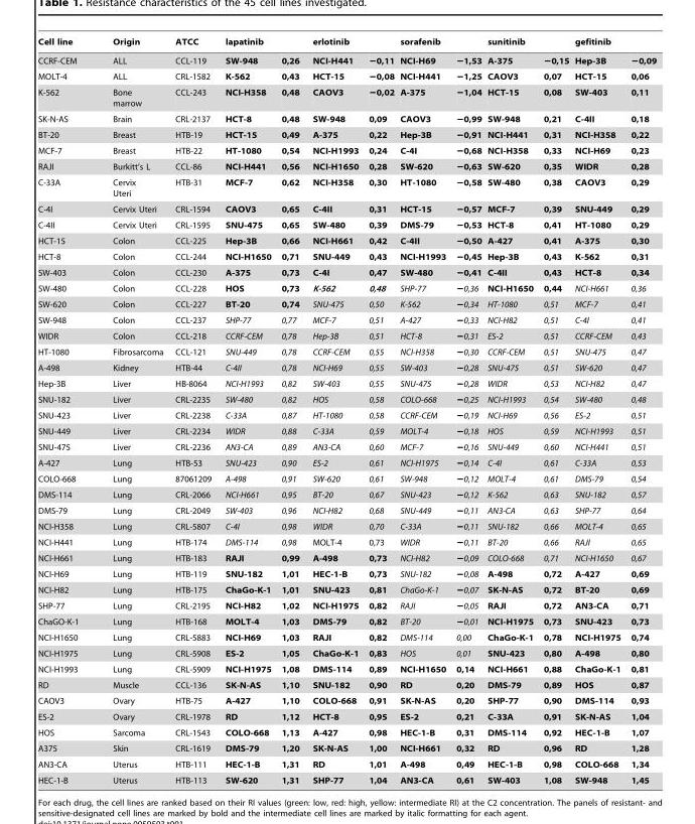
<table><thead><tr><td rowspan="2">Cell line CCRF-CEM</td><td rowspan="2">Origin ALL</td><td rowspan="2">ATCC CCL-119</td><td colspan="2">lapatinib</td><td colspan="2">erlotinib</td><td colspan="2">sorafenib</td><td colspan="2">sunitinib</td><td colspan="2">gefitinib</td></tr><tr><td>SW-948</td><td>0,26</td><td>NCI-H441</td><td>−0,11</td><td>NCI-H69</td><td>−1,53</td><td>A-375</td><td>−0,15</td><td>Hep-3B</td><td>−0,09</td></tr></thead><tbody><tr><td>MOLT-4</td><td>ALL</td><td>CRL-1582</td><td>K-562</td><td>0,43</td><td>HCT-15</td><td>−0,08</td><td>NCI-H441</td><td>−1,25</td><td>CAOV3</td><td>0,07</td><td>HCT-15</td><td>0,06</td></tr><tr><td>K-562</td><td>Bone marrow</td><td>CCL-243</td><td>NCI-H358</td><td>0,48</td><td>CAOV3</td><td>−0,02</td><td>A-375</td><td>−1,04</td><td>HCT-15</td><td>0,08</td><td>SW-403</td><td>0,11</td></tr><tr><td>SK-N-AS</td><td>Brain</td><td>CRL-2137</td><td>HCT-8</td><td>0,48</td><td>SW-948</td><td>0,09</td><td>CAOV3</td><td>−0,99</td><td>SW-948</td><td>0,21</td><td>C-4II</td><td>0,18</td></tr><tr><td>BT-20</td><td>Breast</td><td>HTB-19</td><td>HCT-15</td><td>0,49</td><td>A-375</td><td>0,22</td><td>Hep-3B</td><td>−0,91</td><td>NCI-H441</td><td>0,31</td><td>NCI-H358</td><td>0,22</td></tr><tr><td>MCF-7</td><td>Breast</td><td>HTB-22</td><td>HT-1080</td><td>0,54</td><td>NCI-H1993</td><td>0,24</td><td>C-4I</td><td>−0,68</td><td>NCI-H358</td><td>0,33</td><td>NCI-H69</td><td>0,23</td></tr><tr><td>RAJI</td><td>Burkitt’s L</td><td>CCL-86</td><td>NCI-H441</td><td>0,56</td><td>NCI-H1650</td><td>0,28</td><td>SW-620</td><td>−0,63</td><td>SW-620</td><td>0,35</td><td>WIDR</td><td>0,28</td></tr><tr><td>C-33A</td><td>Cervix Uteri</td><td>HTB-31</td><td>MCF-7</td><td>0,62</td><td>NCI-H358</td><td>0,30</td><td>HT-1080</td><td>−0,58</td><td>SW-480</td><td>0,38</td><td>CAOV3</td><td>0,29</td></tr><tr><td>C-4I</td><td>Cervix Uteri</td><td>CRL-1594</td><td>CAOV3</td><td>0,65</td><td>C-4II</td><td>0,31</td><td>HCT-15</td><td>−0,57</td><td>MCF-7</td><td>0,39</td><td>SNU-449</td><td>0,29</td></tr><tr><td>C-4II</td><td>Cervix Uteri</td><td>CRL-1595</td><td>SNU-475</td><td>0,65</td><td>SW-480</td><td>0,39</td><td>DMS-79</td><td>−0,53</td><td>HCT-8</td><td>0,41</td><td>HT-1080</td><td>0,29</td></tr><tr><td>HCT-15</td><td>Colon</td><td>CCL-225</td><td>Hep-3B</td><td>0,66</td><td>NCI-H661</td><td>0,42</td><td>C-4II</td><td>−0,50</td><td>A-427</td><td>0,41</td><td>A-375</td><td>0,30</td></tr><tr><td>HCT-8</td><td>Colon</td><td>CCL-244</td><td>NCI-H1650</td><td>0,71</td><td>SNU-449</td><td>0,43</td><td>NCI-H1993</td><td>−0,45</td><td>Hep-3B</td><td>0,43</td><td>K-562</td><td>0,31</td></tr><tr><td>SW-403</td><td>Colon</td><td>CCL-230</td><td>A-375</td><td>0,73</td><td>C-4I</td><td>0,47</td><td>SW-480</td><td>−0,41</td><td>C-4II</td><td>0,43</td><td>HCT-8</td><td>0,34</td></tr><tr><td>SW-480</td><td>Colon</td><td>CCL-228</td><td>HOS</td><td>0,73</td><td>K-562</td><td>0,48</td><td>SHP-77</td><td>−0,36</td><td>NCI-H1650</td><td>0,44</td><td>NCI-H661</td><td>0,36</td></tr><tr><td>SW-620</td><td>Colon</td><td>CCL-227</td><td>BT-20</td><td>0,74</td><td>SNU-475</td><td>0,50</td><td>K-562</td><td>−0,34</td><td>HT-1080</td><td>0,51</td><td>MCF-7</td><td>0,41</td></tr><tr><td>SW-948</td><td>Colon</td><td>CCL-237</td><td>SHP-77</td><td>0,77</td><td>MCF-7</td><td>0,51</td><td>A-427</td><td>−0,33</td><td>NCI-H82</td><td>0,51</td><td>C-4I</td><td>0,41</td></tr><tr><td>WIDR</td><td>Colon</td><td>CCL-218</td><td>CCRF-CEM</td><td>0,78</td><td>Hep-3B</td><td>0,51</td><td>HCT-8</td><td>−0,31</td><td>ES-2</td><td>0,51</td><td>CCRF-CEM</td><td>0,43</td></tr><tr><td>HT-1080</td><td>Fibrosarcoma</td><td>CCL-121</td><td>SNU-449</td><td>0,78</td><td>CCRF-CEM</td><td>0,55</td><td>NCI-H358</td><td>−0,30</td><td>CCRF-CEM</td><td>0,51</td><td>SNU-475</td><td>0,47</td></tr><tr><td>A-498</td><td>Kidney</td><td>HTB-44</td><td>C-4II</td><td>0,78</td><td>NCI-H69</td><td>0,55</td><td>SW-403</td><td>−0,28</td><td>SNU-475</td><td>0,51</td><td>SW-620</td><td>0,47</td></tr><tr><td>Hep-3B</td><td>Liver</td><td>HB-8064</td><td>NCI-H1993</td><td>0,82</td><td>SW-403</td><td>0,55</td><td>SNU-475</td><td>−0,28</td><td>WIDR</td><td>0,53</td><td>NCI-H82</td><td>0,47</td></tr><tr><td>SNU-182</td><td>Liver</td><td>CRL-2235</td><td>SW-480</td><td>0,82</td><td>HOS</td><td>0,58</td><td>COLO-668</td><td>−0,25</td><td>NCI-H1993</td><td>0,54</td><td>SW-480</td><td>0,48</td></tr><tr><td>SNU-423</td><td>Liver</td><td>CRL-2238</td><td>C-33A</td><td>0,87</td><td>HT-1080</td><td>0,58</td><td>CCRF-CEM</td><td>−0,19</td><td>NCI-H69</td><td>0,56</td><td>ES-2</td><td>0,51</td></tr><tr><td>SNU-449</td><td>Liver</td><td>CRL-2234</td><td>WIDR</td><td>0,88</td><td>C-33A</td><td>0,59</td><td>MOLT-4</td><td>−0,18</td><td>HOS</td><td>0,59</td><td>NCI-H1993</td><td>0,51</td></tr><tr><td>SNU-475</td><td>Liver</td><td>CRL-2236</td><td>AN3-CA</td><td>0,89</td><td>AN3-CA</td><td>0,60</td><td>MCF-7</td><td>−0,16</td><td>SNU-449</td><td>0,60</td><td>NCI-H441</td><td>0,51</td></tr><tr><td>A-427</td><td>Lung</td><td>HTB-53</td><td>SNU-423</td><td>0,90</td><td>ES-2</td><td>0,61</td><td>NCI-H1975</td><td>−0,14</td><td>C-4I</td><td>0,61</td><td>C-33A</td><td>0,53</td></tr><tr><td>COLO-668</td><td>Lung</td><td>87061209</td><td>A-498</td><td>0,91</td><td>SW-620</td><td>0,61</td><td>SW-948</td><td>−0,12</td><td>MOLT-4</td><td>0,61</td><td>DMS-79</td><td>0,54</td></tr><tr><td>DMS-114</td><td>Lung</td><td>CRL-2066</td><td>NCI-H661</td><td>0,95</td><td>BT-20</td><td>0,67</td><td>SNU-423</td><td>−0,12</td><td>K-562</td><td>0,63</td><td>SNU-182</td><td>0,57</td></tr><tr><td>DMS-79</td><td>Lung</td><td>CRL-2049</td><td>SW-403</td><td>0,96</td><td>NCI-H82</td><td>0,68</td><td>SNU-449</td><td>−0,11</td><td>AN3-CA</td><td>0,63</td><td>SHP-77</td><td>0,64</td></tr><tr><td>NCI-H358</td><td>Lung</td><td>CRL-5807</td><td>C-4I</td><td>0,98</td><td>WIDR</td><td>0,70</td><td>C-33A</td><td>−0,11</td><td>SNU-182</td><td>0,66</td><td>MOLT-4</td><td>0,65</td></tr><tr><td>NCI-H441</td><td>Lung</td><td>HTB-174</td><td>DMS-114</td><td>0,98</td><td>MOLT-4</td><td>0,73</td><td>WIDR</td><td>−0,11</td><td>BT-20</td><td>0,66</td><td>RAJI</td><td>0,65</td></tr><tr><td>NCI-H661</td><td>Lung</td><td>HTB-183</td><td>RAJI</td><td>0,99</td><td>A-498</td><td>0,73</td><td>NCI-H82</td><td>−0,09</td><td>COLO-668</td><td>0,71</td><td>NCI-H1650</td><td>0,67</td></tr><tr><td>NCI-H69</td><td>Lung</td><td>HTB-119</td><td>SNU-182</td><td>1,01</td><td>HEC-1-B</td><td>0,73</td><td>SNU-182</td><td>−0,08</td><td>A-498</td><td>0,72</td><td>A-427</td><td>0,69</td></tr><tr><td>NCI-H82</td><td>Lung</td><td>HTB-175</td><td>ChaGo-K-1</td><td>1,01</td><td>SNU-423</td><td>0,81</td><td>ChaGo-K-1</td><td>−0,07</td><td>SK-N-AS</td><td>0,72</td><td>BT-20</td><td>0,69</td></tr><tr><td>SHP-77</td><td>Lung</td><td>CRL-2195</td><td>NCI-H82</td><td>1,02</td><td>NCI-H1975</td><td>0,82</td><td>RAJI</td><td>−0,05</td><td>RAJI</td><td>0,72</td><td>AN3-CA</td><td>0,71</td></tr><tr><td>ChaGO-K-1</td><td>Lung</td><td>HTB-168</td><td>MOLT-4</td><td>1,03</td><td>DMS-79</td><td>0,82</td><td>BT-20</td><td>−0,01</td><td>NCI-H1975</td><td>0,73</td><td>SNU-423</td><td>0,73</td></tr><tr><td>NCI-H1650</td><td>Lung</td><td>CRL-5883</td><td>NCI-H69</td><td>1,03</td><td>RAJI</td><td>0,82</td><td>DMS-114</td><td>0,00</td><td>ChaGo-K-1</td><td>0,78</td><td>NCI-H1975</td><td>0,74</td></tr><tr><td>NCI-H1975</td><td>Lung</td><td>CRL-5908</td><td>ES-2</td><td>1,05</td><td>ChaGo-K-1</td><td>0,83</td><td>HOS</td><td>0,01</td><td>SNU-423</td><td>0,80</td><td>A-498</td><td>0,80</td></tr><tr><td>NCI-H1993</td><td>Lung</td><td>CRL-5909</td><td>NCI-H1975</td><td>1,08</td><td>DMS-114</td><td>0,89</td><td>NCI-H1650</td><td>0,14</td><td>NCI-H661</td><td>0,88</td><td>ChaGo-K-1</td><td>0,81</td></tr><tr><td>RD</td><td>Muscle</td><td>CCL-136</td><td>SK-N-AS</td><td>1,10</td><td>SNU-182</td><td>0,90</td><td>RD</td><td>0,20</td><td>DMS-79</td><td>0,89</td><td>HOS</td><td>0,87</td></tr><tr><td>CAOV3</td><td>Ovary</td><td>HTB-75</td><td>A-427</td><td>1,10</td><td>COLO-668</td><td>0,91</td><td>SK-N-AS</td><td>0,20</td><td>SHP-77</td><td>0,90</td><td>DMS-114</td><td>0,93</td></tr><tr><td>ES-2</td><td>Ovary</td><td>CRL-1978</td><td>RD</td><td>1,12</td><td>HCT-8</td><td>0,95</td><td>ES-2</td><td>0,21</td><td>C-33A</td><td>0,91</td><td>SK-N-AS</td><td>1,04</td></tr><tr><td>HOS</td><td>Sarcoma</td><td>CRL-1543</td><td>COLO-668</td><td>1,13</td><td>A-427</td><td>0,98</td><td>HEC-1-B</td><td>0,31</td><td>DMS-114</td><td>0,92</td><td>HEC-1-B</td><td>1,07</td></tr><tr><td>A375</td><td>Skin</td><td>CRL-1619</td><td>DMS-79</td><td>1,20</td><td>SK-N-AS</td><td>1,00</td><td>NCI-H661</td><td>0,32</td><td>RD</td><td>0,96</td><td>RD</td><td>1,28</td></tr><tr><td>AN3-CA</td><td>Uterus</td><td>HTB-111</td><td>HEC-1-B</td><td>1,31</td><td>RD</td><td>1,01</td><td>A-498</td><td>0,49</td><td>HEC-1-B</td><td>0,98</td><td>COLO-668</td><td>1,34</td></tr><tr><td>HEC-1-B</td><td>Uterus</td><td>HTB-113</td><td>SW-620</td><td>1,31</td><td>SHP-77</td><td>1,04</td><td>AN3-CA</td><td>0,61</td><td>SW-403</td><td>1,08</td><td>SW-948</td><td>1,45</td></tr></tbody></table>